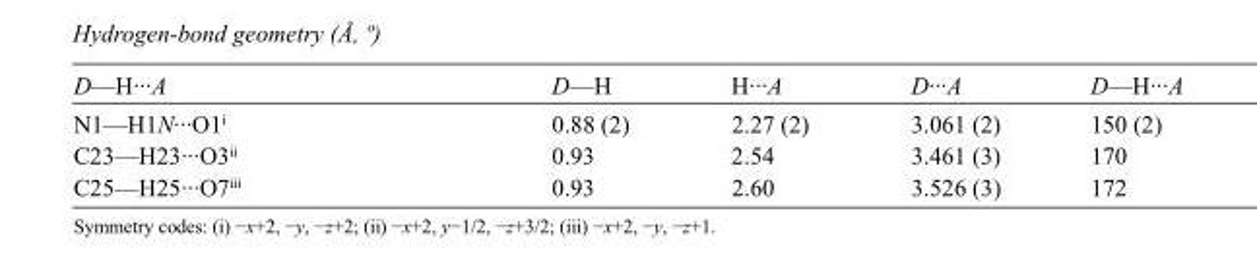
<table><tbody><tr><td>D—H···A</td><td>D—H</td><td>H···A</td><td>D···A</td><td>D—H···A</td></tr><tr><td>N1—H1N···O1<sup>i</sup></td><td>0.88 (2)</td><td>2.27 (2)</td><td>3.061 (2)</td><td>150 (2)</td></tr><tr><td>C23—H23···O3<sup>ii</sup></td><td>0.93</td><td>2.54</td><td>3.461 (3)</td><td>170</td></tr><tr><td>C25—H25···O7<sup>iii</sup></td><td>0.93</td><td>2.60</td><td>3.526 (3)</td><td>172</td></tr></tbody></table>